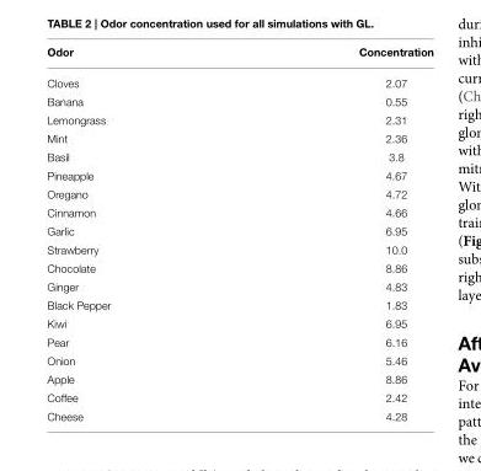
<table><thead><tr><td>Odor</td><td>Concentration</td></tr></thead><tbody><tr><td>Cloves</td><td>2.07</td></tr><tr><td>Banana</td><td>0.55</td></tr><tr><td>Lemongrass</td><td>2.31</td></tr><tr><td>Mint</td><td>2.36</td></tr><tr><td>Basil</td><td>3.8</td></tr><tr><td>Pineapple</td><td>4.67</td></tr><tr><td>Oregano</td><td>4.72</td></tr><tr><td>Cinnamon</td><td>4.66</td></tr><tr><td>Garlic</td><td>6.95</td></tr><tr><td>Strawberry</td><td>10.0</td></tr><tr><td>Chocolate</td><td>8.86</td></tr><tr><td>Ginger</td><td>4.83</td></tr><tr><td>Black Pepper</td><td>1.83</td></tr><tr><td>Kiwi</td><td>6.95</td></tr><tr><td>Pear</td><td>6.16</td></tr><tr><td>Onion</td><td>5.46</td></tr><tr><td>Apple</td><td>8.86</td></tr><tr><td>Coffee</td><td>2.42</td></tr><tr><td>Cheese</td><td>4.28</td></tr></tbody></table>